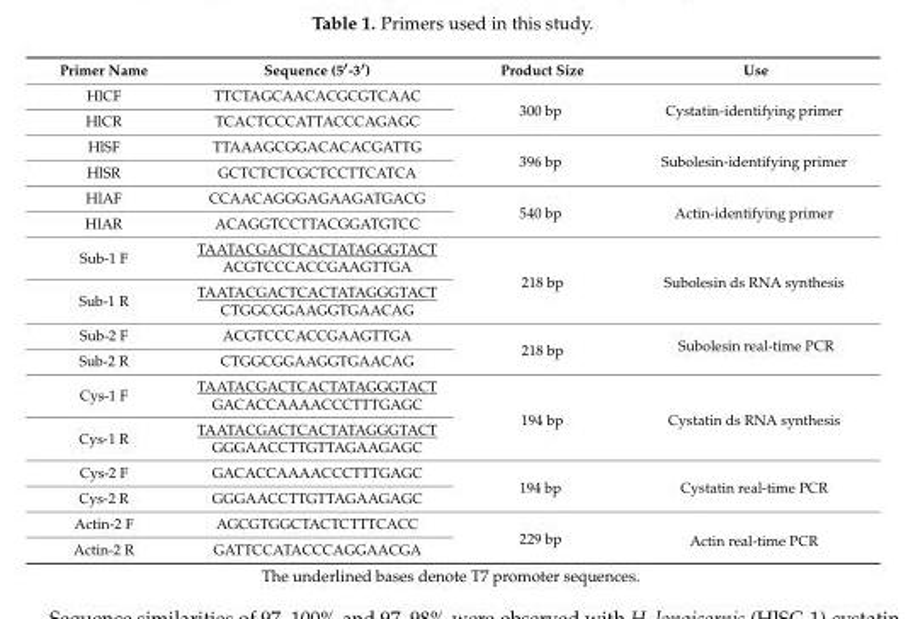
<table><thead><tr><td>Primer Name</td><td>Sequence (5′-3′)</td><td>Product Size</td><td>Use</td></tr></thead><tbody><tr><td>HlCF</td><td>TTCTAGCAACACGCGTCAAC</td><td rowspan="2">300 bp</td><td rowspan="2">Cystatin-identifying primer</td></tr><tr><td>HlCR</td><td>TCACTCCCATTACCCAGAGC</td></tr><tr><td>HlSF</td><td>TTAAAGCGGACACACGATTG</td><td rowspan="2">396 bp</td><td rowspan="2">Subolesin-identifying primer</td></tr><tr><td>HlSR</td><td>GCTCTCTCGCTCCTTCATCA</td></tr><tr><td>HlAF</td><td>CCAACAGGGAGAAGATGACG</td><td rowspan="2">540 bp</td><td rowspan="2">Actin-identifying primer</td></tr><tr><td>HlAR</td><td>ACAGGTCCTTACGGATGTCC</td></tr><tr><td>Sub-1 F</td><td>TAATACGACTCACTATAGGGTACT ACGTCCCACCGAAGTTGA</td><td rowspan="2">218 bp</td><td rowspan="2">Subolesin ds RNA synthesis</td></tr><tr><td>Sub-1 R</td><td>TAATACGACTCACTATAGGGTACT CTGGCGGAAGGTGAACAG</td></tr><tr><td>Sub-2 F</td><td>ACGTCCCACCGAAGTTGA</td><td rowspan="2">218 bp</td><td rowspan="2">Subolesin real-time PCR</td></tr><tr><td>Sub-2 R</td><td>CTGGCGGAAGGTGAACAG</td></tr><tr><td>Cys-1 F</td><td>TAATACGACTCACTATAGGGTACT GACACCAAAACCCTTTGAGC</td><td rowspan="2">194 bp</td><td rowspan="2">Cystatin ds RNA synthesis</td></tr><tr><td>Cys-1 R</td><td>TAATACGACTCACTATAGGGTACT GGGAACCTTGTTAGAAGAGC</td></tr><tr><td>Cys-2 F</td><td>GACACCAAAACCCTTTGAGC</td><td rowspan="2">194 bp</td><td rowspan="2">Cystatin real-time PCR</td></tr><tr><td>Cys-2 R</td><td>GGGAACCTTGTTAGAAGAGC</td></tr><tr><td>Actin-2 F</td><td>AGCGTGGCTACTCTTTCACC</td><td rowspan="2">229 bp</td><td rowspan="2">Actin real-time PCR</td></tr><tr><td>Actin-2 R</td><td>GATTCCATACCCAGGAACGA</td></tr></tbody></table>